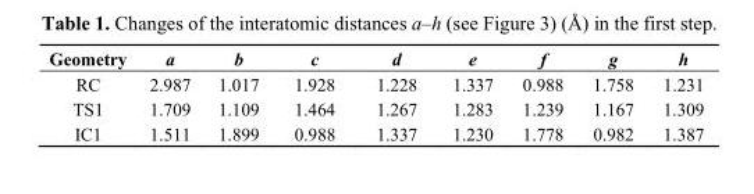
<table><thead><tr><td>Geometry</td><td>a</td><td>b</td><td>c</td><td>d</td><td>e</td><td>f</td><td>g</td><td>h</td></tr></thead><tbody><tr><td>RC</td><td>2.987</td><td>1.017</td><td>1.928</td><td>1.228</td><td>1.337</td><td>0.988</td><td>1.758</td><td>1.231</td></tr><tr><td>TS1</td><td>1.709</td><td>1.109</td><td>1.464</td><td>1.267</td><td>1.283</td><td>1.239</td><td>1.167</td><td>1.309</td></tr><tr><td>IC1</td><td>1.511</td><td>1.899</td><td>0.988</td><td>1.337</td><td>1.230</td><td>1.778</td><td>0.982</td><td>1.387</td></tr></tbody></table>